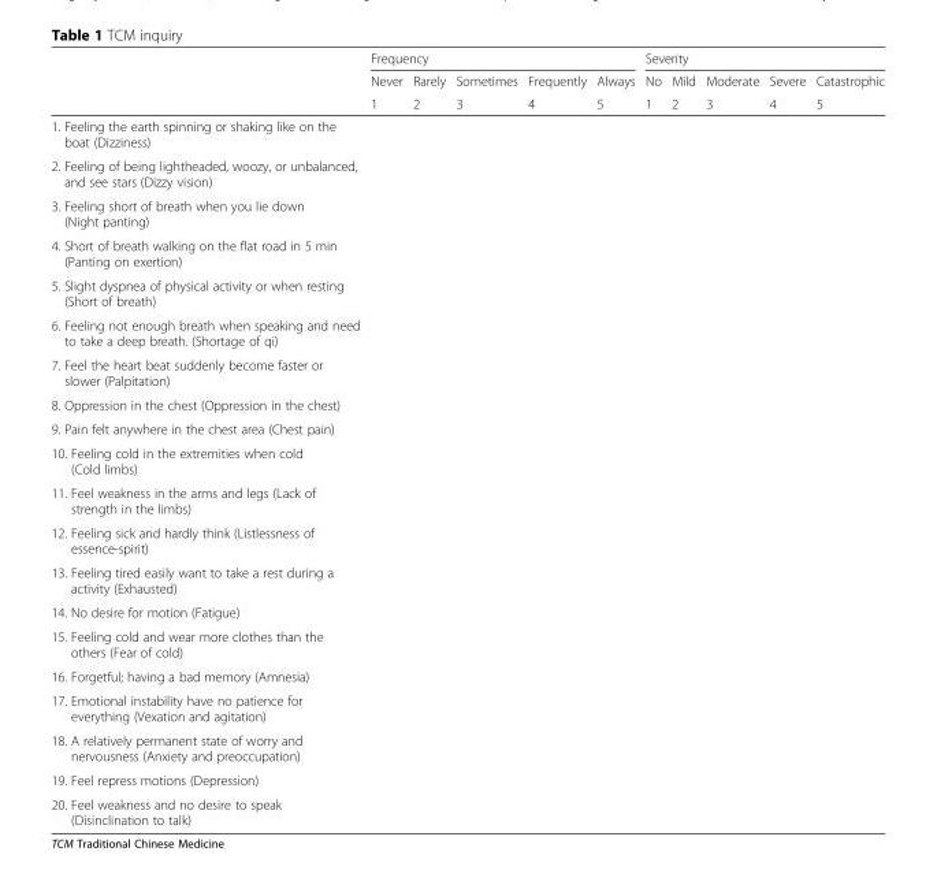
<table><thead><tr><td rowspan="3"></td><td colspan="5">Frequency</td><td colspan="5">Severity</td></tr><tr><td rowspan="2">Never 1</td><td rowspan="2">Rarely 2</td><td rowspan="2">Sometimes 3</td><td rowspan="2">Frequently 4</td><td rowspan="2">Always 5</td><td rowspan="2">No 1</td><td rowspan="2">Mild 2</td><td rowspan="2">Moderate 3</td><td rowspan="2">Severe 4</td><td rowspan="2">Catastrophic 5</td></tr><tr></tr></thead><tbody><tr><td colspan="11">1. Feeling the earth spinning or shaking like on the boat (Dizziness)</td></tr><tr><td colspan="11">2. Feeling of being lightheaded, woozy, or unbalanced, and see stars (Dizzy vision)</td></tr><tr><td colspan="11">3. Feeling short of breath when you lie down (Night panting)</td></tr><tr><td colspan="11">4. Short of breath walking on the flat road in 5 min (Panting on exertion)</td></tr><tr><td colspan="11">5. Slight dyspnea of physical activity or when resting (Short of breath)</td></tr><tr><td colspan="11">6. Feeling not enough breath when speaking and need to take a deep breath. (Shortage of qi)</td></tr><tr><td colspan="11">7. Feel the heart beat suddenly become faster or slower (Palpitation)</td></tr><tr><td colspan="11">8. Oppression in the chest (Oppression in the chest)</td></tr><tr><td colspan="11">9. Pain felt anywhere in the chest area (Chest pain)</td></tr><tr><td colspan="11">10. Feeling cold in the extremities when cold (Cold limbs)</td></tr><tr><td colspan="11">11. Feel weakness in the arms and legs (Lack of strength in the limbs)</td></tr><tr><td colspan="11">12. Feeling sick and hardly think (Listlessness of essence-spirit)</td></tr><tr><td colspan="11">13. Feeling tired easily want to take a rest during a activity (Exhausted)</td></tr><tr><td colspan="11">14. No desire for motion (Fatigue)</td></tr><tr><td colspan="11">15. Feeling cold and wear more clothes than the others (Fear of cold)</td></tr><tr><td colspan="11">16. Forgetful; having a bad memory (Amnesia)</td></tr><tr><td colspan="11">17. Emotional instability have no patience for everything (Vexation and agitation)</td></tr><tr><td colspan="11">18. A relatively permanent state of worry and nervousness (Anxiety and preoccupation)</td></tr><tr><td colspan="11">19. Feel repress motions (Depression)</td></tr><tr><td>20. Feel weakness and no desire to speak (Disinclination to talk)</td><td></td><td></td><td></td><td></td><td></td><td></td><td></td><td></td><td></td><td></td></tr></tbody></table>